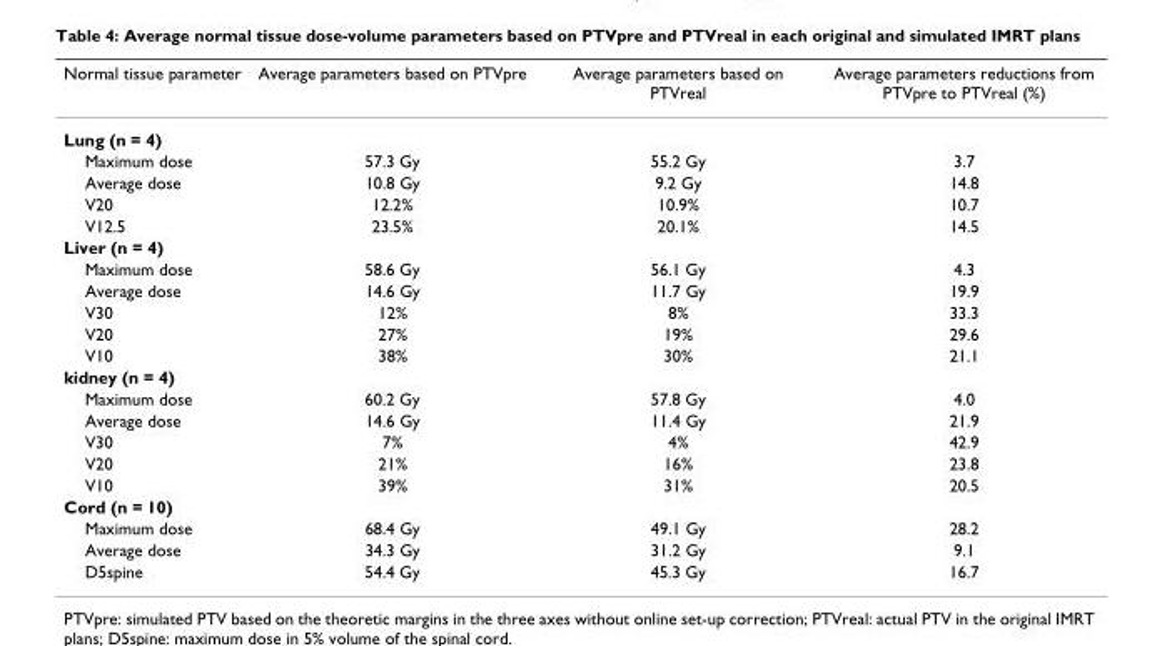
<table><thead><tr><td>Normal tissue parameter</td><td>Average parameters based on PTVpre</td><td>Average parameters based on PTVreal</td><td>Average parameters reductions from PTVpre to PTVreal (%)</td></tr></thead><tbody><tr><td colspan="4">Lung (n = 4)</td></tr><tr><td>Maximum dose</td><td>57.3 Gy</td><td>55.2 Gy</td><td>3.7</td></tr><tr><td>Average dose</td><td>10.8 Gy</td><td>9.2 Gy</td><td>14.8</td></tr><tr><td>V20</td><td>12.2%</td><td>10.9%</td><td>10.7</td></tr><tr><td>V12.5</td><td>23.5%</td><td>20.1%</td><td>14.5</td></tr><tr><td colspan="4">Liver (n = 4)</td></tr><tr><td>Maximum dose</td><td>58.6 Gy</td><td>56.1 Gy</td><td>4.3</td></tr><tr><td>Average dose</td><td>14.6 Gy</td><td>11.7 Gy</td><td>19.9</td></tr><tr><td>V30</td><td>12%</td><td>8%</td><td>33.3</td></tr><tr><td>V20</td><td>27%</td><td>19%</td><td>29.6</td></tr><tr><td>V10</td><td>38%</td><td>30%</td><td>21.1</td></tr><tr><td colspan="4">kidney (n = 4)</td></tr><tr><td>Maximum dose</td><td>60.2 Gy</td><td>57.8 Gy</td><td>4.0</td></tr><tr><td>Average dose</td><td>14.6 Gy</td><td>11.4 Gy</td><td>21.9</td></tr><tr><td>V30</td><td>7%</td><td>4%</td><td>42.9</td></tr><tr><td>V20</td><td>21%</td><td>16%</td><td>23.8</td></tr><tr><td>V10</td><td>39%</td><td>31%</td><td>20.5</td></tr><tr><td colspan="4">Cord (n = 10)</td></tr><tr><td>Maximum dose</td><td>68.4 Gy</td><td>49.1 Gy</td><td>28.2</td></tr><tr><td>Average dose</td><td>34.3 Gy</td><td>31.2 Gy</td><td>9.1</td></tr><tr><td>D5spine</td><td>54.4 Gy</td><td>45.3 Gy</td><td>16.7</td></tr></tbody></table>